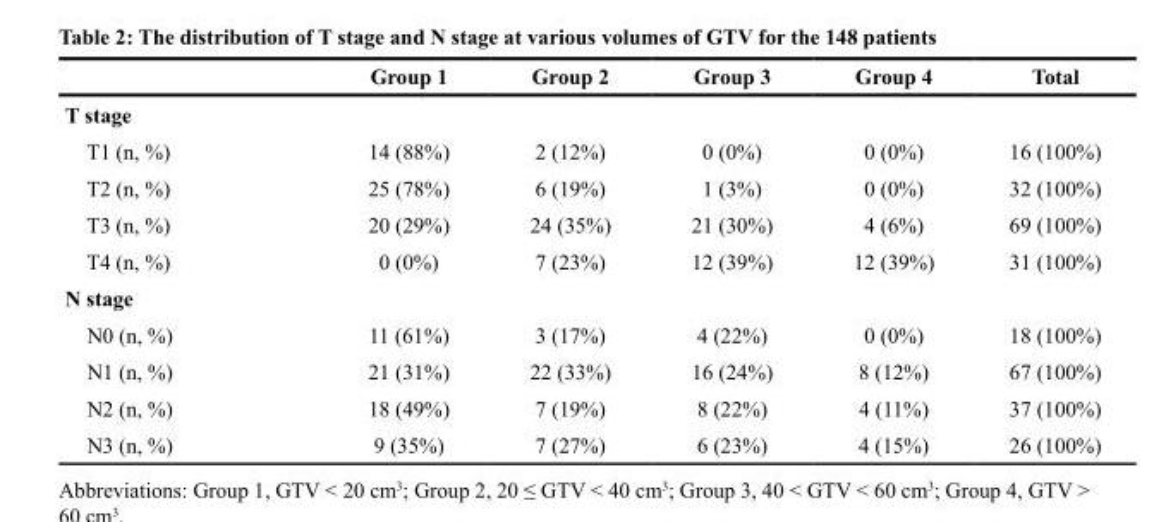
<table><thead><tr><td></td><td>Group 1</td><td>Group 2</td><td>Group 3</td><td>Group 4</td><td>Total</td></tr></thead><tbody><tr><td colspan="6">T stage</td></tr><tr><td>T1 (n, %)</td><td>14 (88%)</td><td>2 (12%)</td><td>0 (0%)</td><td>0 (0%)</td><td>16 (100%)</td></tr><tr><td>T2 (n, %)</td><td>25 (78%)</td><td>6 (19%)</td><td>1 (3%)</td><td>0 (0%)</td><td>32 (100%)</td></tr><tr><td>T3 (n, %)</td><td>20 (29%)</td><td>24 (35%)</td><td>21 (30%)</td><td>4 (6%)</td><td>69 (100%)</td></tr><tr><td>T4 (n, %)</td><td>0 (0%)</td><td>7 (23%)</td><td>12 (39%)</td><td>12 (39%)</td><td>31 (100%)</td></tr><tr><td colspan="6">N stage</td></tr><tr><td>N0 (n, %)</td><td>11 (61%)</td><td>3 (17%)</td><td>4 (22%)</td><td>0 (0%)</td><td>18 (100%)</td></tr><tr><td>N1 (n, %)</td><td>21 (31%)</td><td>22 (33%)</td><td>16 (24%)</td><td>8 (12%)</td><td>67 (100%)</td></tr><tr><td>N2 (n, %)</td><td>18 (49%)</td><td>7 (19%)</td><td>8 (22%)</td><td>4 (11%)</td><td>37 (100%)</td></tr><tr><td>N3 (n, %)</td><td>9 (35%)</td><td>7 (27%)</td><td>6 (23%)</td><td>4 (15%)</td><td>26 (100%)</td></tr></tbody></table>